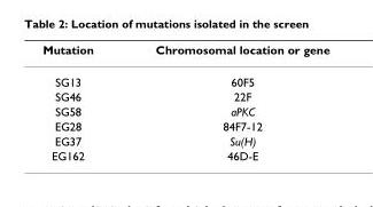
<table><thead><tr><td>Mutation</td><td>Chromosomal location or gene</td></tr></thead><tbody><tr><td>SG13</td><td>60F5</td></tr><tr><td>SG46</td><td>22F</td></tr><tr><td>SG58</td><td>aPKC</td></tr><tr><td>EG28</td><td>84F7-12</td></tr><tr><td>EG37</td><td>Su(H)</td></tr><tr><td>EG162</td><td>46D-E</td></tr></tbody></table>